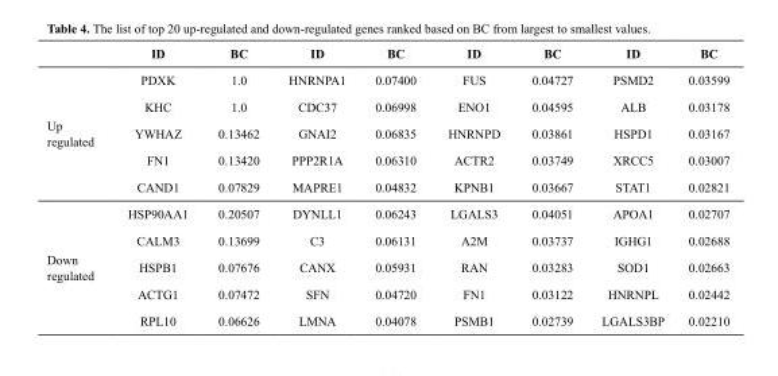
<table><thead><tr><td></td><td>ID</td><td>BC</td><td>ID</td><td>BC</td><td>ID</td><td>BC</td><td>ID</td><td>BC</td></tr></thead><tbody><tr><td rowspan="5">Up regulated</td><td>PDXK</td><td>1.0</td><td>HNRNPA1</td><td>0.07400</td><td>FUS</td><td>0.04727</td><td>PSMD2</td><td>0.03599</td></tr><tr><td>KHC</td><td>1.0</td><td>CDC37</td><td>0.06998</td><td>ENO1</td><td>0.04595</td><td>ALB</td><td>0.03178</td></tr><tr><td>YWHAZ</td><td>0.13462</td><td>GNAI2</td><td>0.06835</td><td>HNRNPD</td><td>0.03861</td><td>HSPD1</td><td>0.03167</td></tr><tr><td>FN1</td><td>0.13420</td><td>PPP2R1A</td><td>0.06310</td><td>ACTR2</td><td>0.03749</td><td>XRCC5</td><td>0.03007</td></tr><tr><td>CAND1</td><td>0.07829</td><td>MAPRE1</td><td>0.04832</td><td>KPNB1</td><td>0.03667</td><td>STAT1</td><td>0.02821</td></tr><tr><td rowspan="5">Down regulated</td><td>HSP90AA1</td><td>0.20507</td><td>DYNLL1</td><td>0.06243</td><td>LGALS3</td><td>0.04051</td><td>APOA1</td><td>0.02707</td></tr><tr><td>CALM3</td><td>0.13699</td><td>C3</td><td>0.06131</td><td>A2M</td><td>0.03737</td><td>IGHG1</td><td>0.02688</td></tr><tr><td>HSPB1</td><td>0.07676</td><td>CANX</td><td>0.05931</td><td>RAN</td><td>0.03283</td><td>SOD1</td><td>0.02663</td></tr><tr><td>ACTG1</td><td>0.07472</td><td>SFN</td><td>0.04720</td><td>FN1</td><td>0.03122</td><td>HNRNPL</td><td>0.02442</td></tr><tr><td>RPL10</td><td>0.06626</td><td>LMNA</td><td>0.04078</td><td>PSMB1</td><td>0.02739</td><td>LGALS3BP</td><td>0.02210</td></tr></tbody></table>